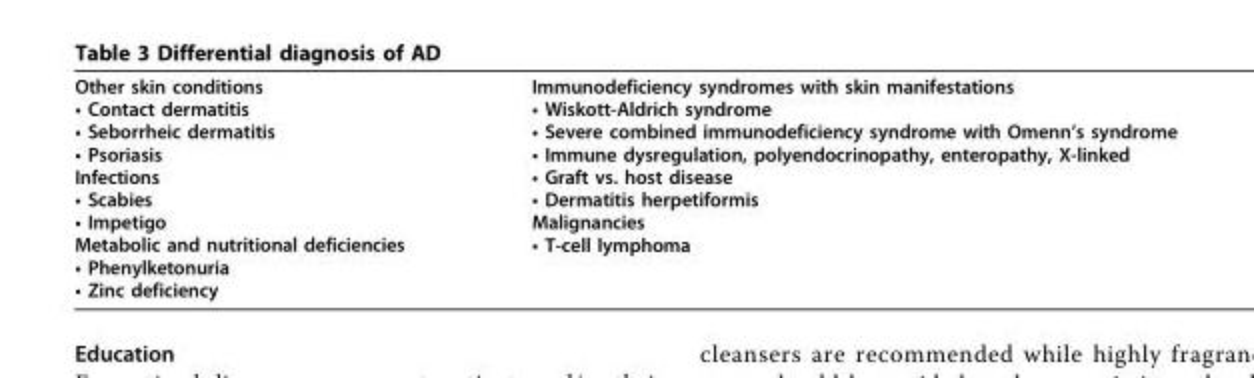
<table><tbody><tr><td>Other skin conditions • Contact dermatitis • Seborrheic dermatitis • Psoriasis Infections • Scabies • Impetigo Metabolic and nutritional deficiencies • Phenylketonuria • Zinc deficiency</td><td>Immunodeficiency syndromes with skin manifestations • Wiskott-Aldrich syndrome • Severe combined immunodeficiency syndrome with Omenn’s syndrome • Immune dysregulation, polyendocrinopathy, enteropathy, X-linked • Graft vs. host disease • Dermatitis herpetiformis Malignancies • T-cell lymphoma</td></tr></tbody></table>